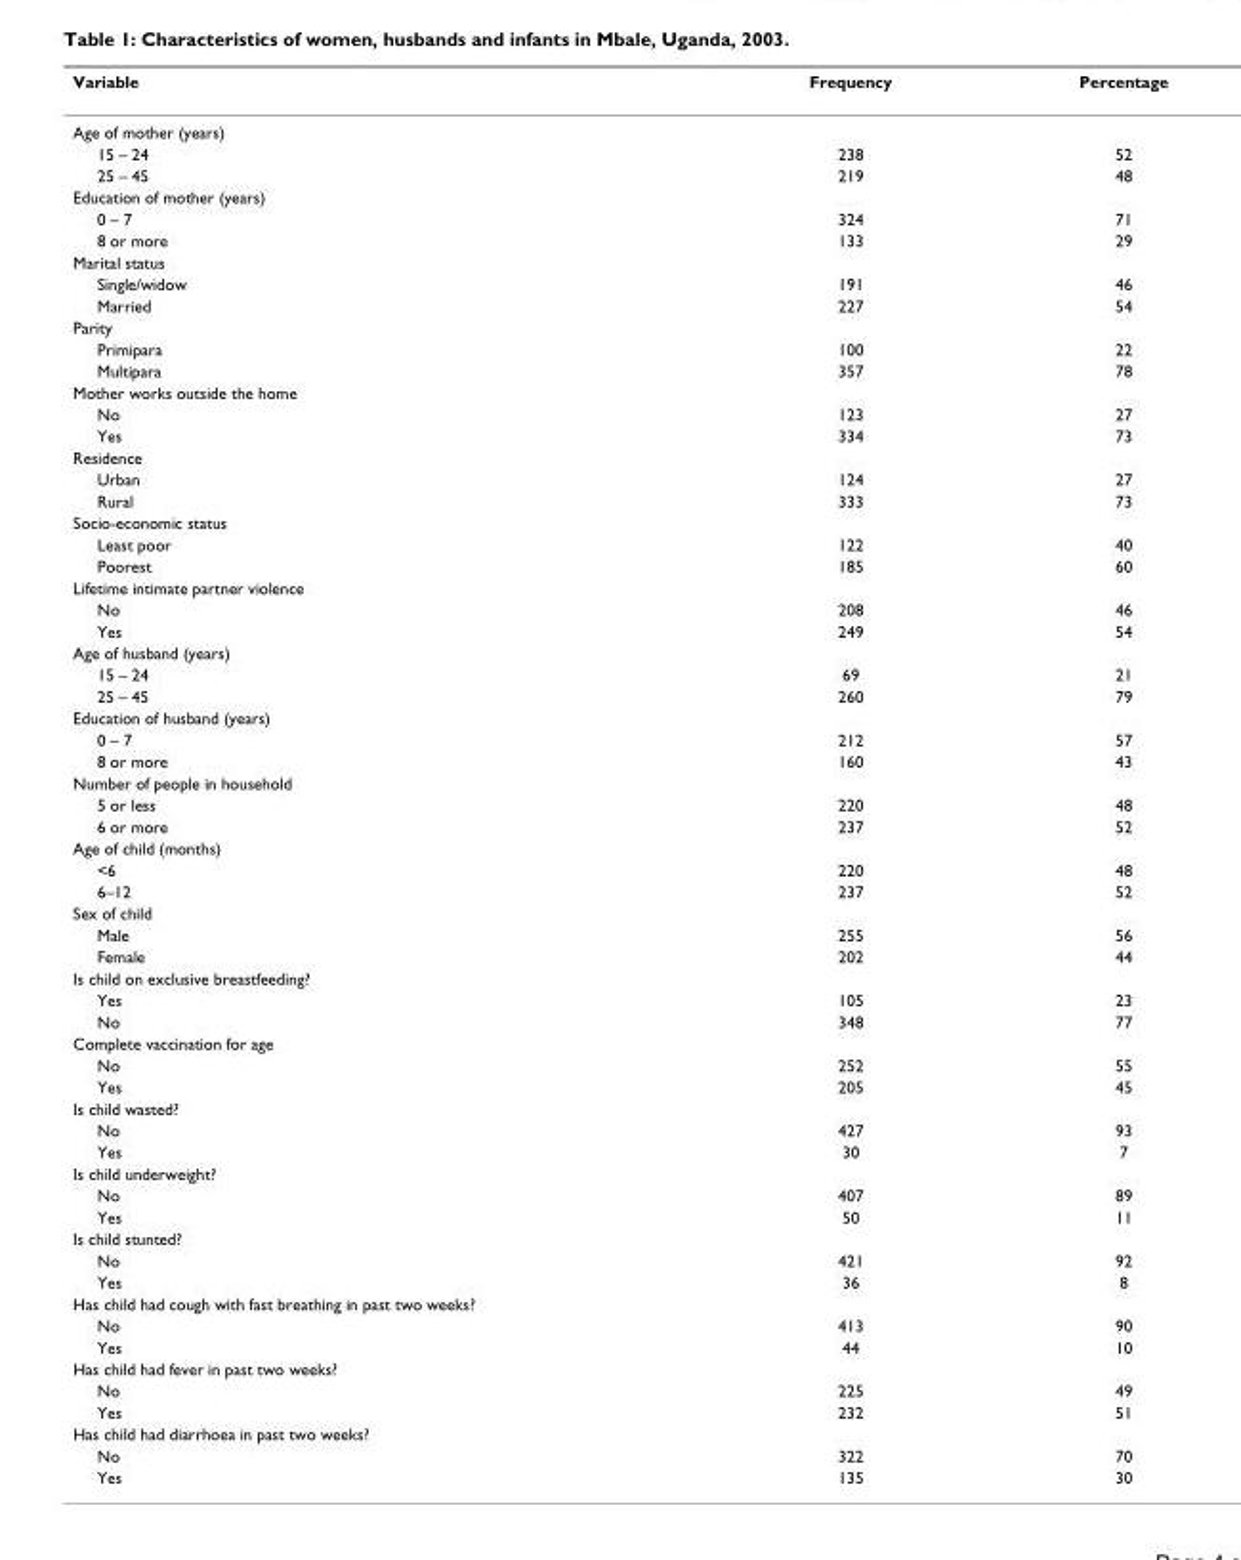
<table><thead><tr><td>Variable</td><td>Frequency</td><td>Percentage</td></tr></thead><tbody><tr><td colspan="3">Age of mother (years)</td></tr><tr><td>15 – 24</td><td>238</td><td>52</td></tr><tr><td>25 – 45</td><td>219</td><td>48</td></tr><tr><td colspan="3">Education of mother (years)</td></tr><tr><td>0 – 7</td><td>324</td><td>71</td></tr><tr><td>8 or more</td><td>133</td><td>29</td></tr><tr><td colspan="3">Marital status</td></tr><tr><td>Single/widow</td><td>191</td><td>46</td></tr><tr><td>Married</td><td>227</td><td>54</td></tr><tr><td colspan="3">Parity</td></tr><tr><td>Primipara</td><td>100</td><td>22</td></tr><tr><td>Multipara</td><td>357</td><td>78</td></tr><tr><td colspan="3">Mother works outside the home</td></tr><tr><td>No</td><td>123</td><td>27</td></tr><tr><td>Yes</td><td>334</td><td>73</td></tr><tr><td colspan="3">Residence</td></tr><tr><td>Urban</td><td>124</td><td>27</td></tr><tr><td>Rural</td><td>333</td><td>73</td></tr><tr><td colspan="3">Socio-economic status</td></tr><tr><td>Least poor</td><td>122</td><td>40</td></tr><tr><td>Poorest</td><td>185</td><td>60</td></tr><tr><td colspan="3">Lifetime intimate partner violence</td></tr><tr><td>No</td><td>208</td><td>46</td></tr><tr><td>Yes</td><td>249</td><td>54</td></tr><tr><td colspan="3">Age of husband (years)</td></tr><tr><td>15 – 24</td><td>69</td><td>21</td></tr><tr><td>25 – 45</td><td>260</td><td>79</td></tr><tr><td colspan="3">Education of husband (years)</td></tr><tr><td>0 – 7</td><td>212</td><td>57</td></tr><tr><td>8 or more</td><td>160</td><td>43</td></tr><tr><td colspan="3">Number of people in household</td></tr><tr><td>5 or less</td><td>220</td><td>48</td></tr><tr><td>6 or more</td><td>237</td><td>52</td></tr><tr><td colspan="3">Age of child (months)</td></tr><tr><td>&lt;6</td><td>220</td><td>48</td></tr><tr><td>6–12</td><td>237</td><td>52</td></tr><tr><td colspan="3">Sex of child</td></tr><tr><td>Male</td><td>255</td><td>56</td></tr><tr><td>Female</td><td>202</td><td>44</td></tr><tr><td colspan="3">Is child on exclusive breastfeeding?</td></tr><tr><td>Yes</td><td>105</td><td>23</td></tr><tr><td>No</td><td>348</td><td>77</td></tr><tr><td colspan="3">Complete vaccination for age</td></tr><tr><td>No</td><td>252</td><td>55</td></tr><tr><td>Yes</td><td>205</td><td>45</td></tr><tr><td colspan="3">Is child wasted?</td></tr><tr><td>No</td><td>427</td><td>93</td></tr><tr><td>Yes</td><td>30</td><td>7</td></tr><tr><td colspan="3">Is child underweight?</td></tr><tr><td>No</td><td>407</td><td>89</td></tr><tr><td>Yes</td><td>50</td><td>11</td></tr><tr><td colspan="3">Is child stunted?</td></tr><tr><td>No</td><td>421</td><td>92</td></tr><tr><td>Yes</td><td>36</td><td>8</td></tr><tr><td colspan="3">Has child had cough with fast breathing in past two weeks?</td></tr><tr><td>No</td><td>413</td><td>90</td></tr><tr><td>Yes</td><td>44</td><td>10</td></tr><tr><td colspan="3">Has child had fever in past two weeks?</td></tr><tr><td>No</td><td>225</td><td>49</td></tr><tr><td>Yes</td><td>232</td><td>51</td></tr><tr><td colspan="3">Has child had diarrhoea in past two weeks?</td></tr><tr><td>No</td><td>322</td><td>70</td></tr><tr><td>Yes</td><td>135</td><td>30</td></tr></tbody></table>